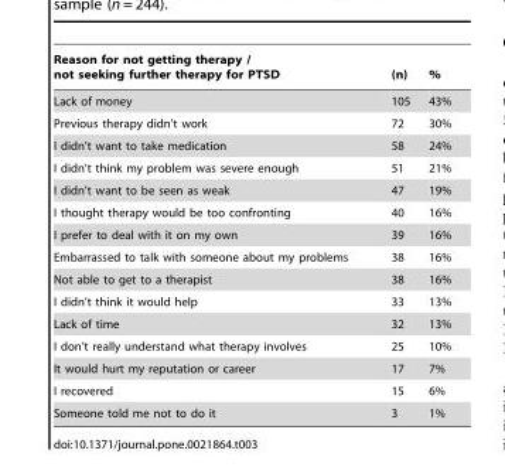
<table><thead><tr><td>Reason for not getting therapy / not seeking further therapy for PTSD</td><td>(n)</td><td>%</td></tr></thead><tbody><tr><td>Lack of money</td><td>105</td><td>43%</td></tr><tr><td>Previous therapy didn’t work</td><td>72</td><td>30%</td></tr><tr><td>I didn’t want to take medication</td><td>58</td><td>24%</td></tr><tr><td>I didn’t think my problem was severe enough</td><td>51</td><td>21%</td></tr><tr><td>I didn’t want to be seen as weak</td><td>47</td><td>19%</td></tr><tr><td>I thought therapy would be too confronting</td><td>40</td><td>16%</td></tr><tr><td>I prefer to deal with it on my own</td><td>39</td><td>16%</td></tr><tr><td>Embarrassed to talk with someone about my problems</td><td>38</td><td>16%</td></tr><tr><td>Not able to get to a therapist</td><td>38</td><td>16%</td></tr><tr><td>I didn’t think it would help</td><td>33</td><td>13%</td></tr><tr><td>Lack of time</td><td>32</td><td>13%</td></tr><tr><td>I don’t really understand what therapy involves</td><td>25</td><td>10%</td></tr><tr><td>It would hurt my reputation or career</td><td>17</td><td>7%</td></tr><tr><td>I recovered</td><td>15</td><td>6%</td></tr><tr><td>Someone told me not to do it</td><td>3</td><td>1%</td></tr></tbody></table>